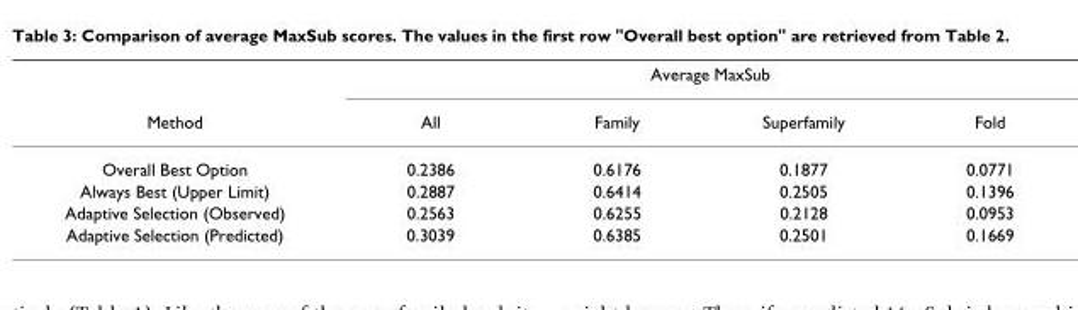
<table><thead><tr><td rowspan="2">Method</td><td colspan="4">Average MaxSub</td></tr><tr><td>All</td><td>Family</td><td>Superfamily</td><td>Fold</td></tr></thead><tbody><tr><td>Overall Best Option</td><td>0.2386</td><td>0.6176</td><td>0.1877</td><td>0.0771</td></tr><tr><td>Always Best (Upper Limit)</td><td>0.2887</td><td>0.6414</td><td>0.2505</td><td>0.1396</td></tr><tr><td>Adaptive Selection (Observed)</td><td>0.2563</td><td>0.6255</td><td>0.2128</td><td>0.0953</td></tr><tr><td>Adaptive Selection (Predicted)</td><td>0.3039</td><td>0.6385</td><td>0.2501</td><td>0.1669</td></tr></tbody></table>